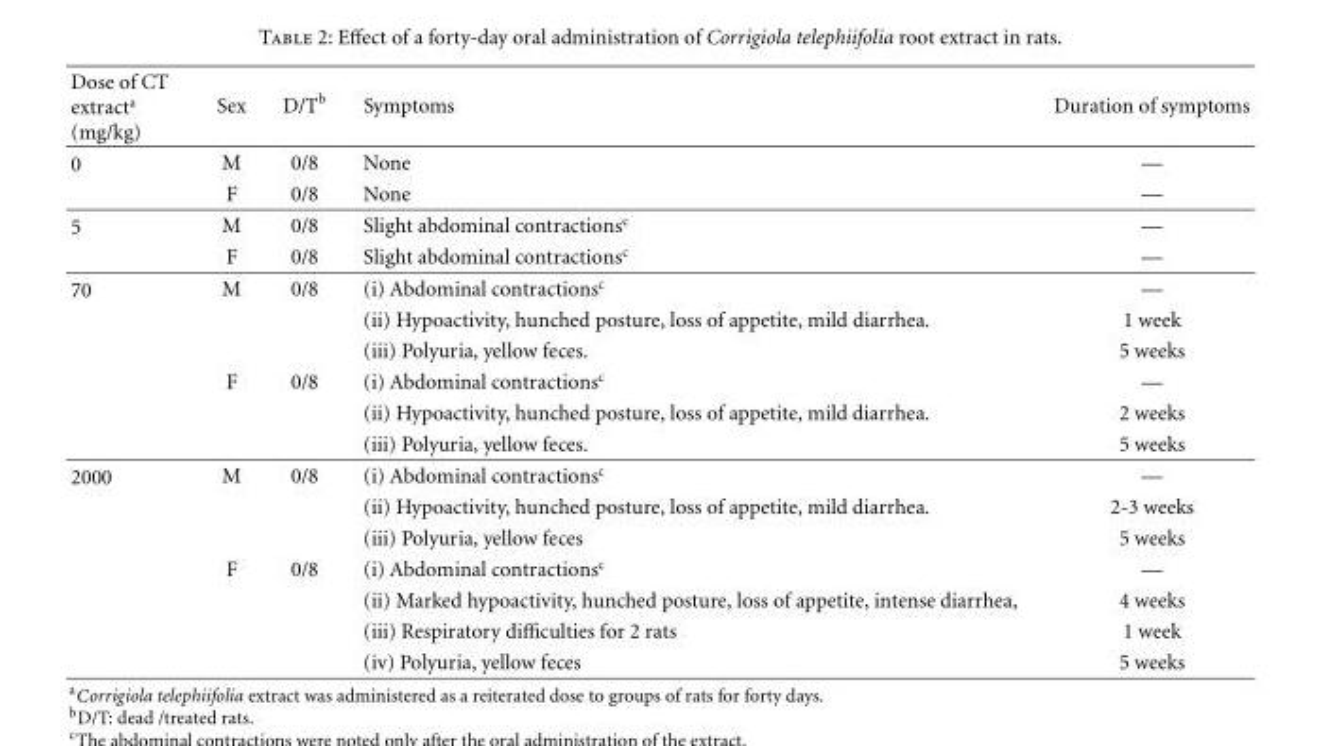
<table><thead><tr><td>Dose of CT extracta (mg/kg)</td><td>Sex</td><td>D/Tb</td><td>Symptoms</td><td>Duration of symptoms</td></tr></thead><tbody><tr><td rowspan="2">0</td><td>M</td><td>0/8</td><td>None</td><td>—</td></tr><tr><td>F</td><td>0/8</td><td>None</td><td>—</td></tr><tr><td rowspan="2">5</td><td>M</td><td>0/8</td><td>Slight abdominal contractionsc</td><td>—</td></tr><tr><td>F</td><td>0/8</td><td>Slight abdominal contractionsc</td><td>—</td></tr><tr><td rowspan="6">70</td><td>M</td><td>0/8</td><td>(i) Abdominal contractionsc</td><td>—</td></tr><tr><td></td><td></td><td>(ii) Hypoactivity, hunched posture, loss of appetite, mild diarrhea.</td><td>1 week</td></tr><tr><td></td><td></td><td>(iii) Polyuria, yellow feces.</td><td>5 weeks</td></tr><tr><td>F</td><td>0/8</td><td>(i) Abdominal contractionsc</td><td>—</td></tr><tr><td></td><td></td><td>(ii) Hypoactivity, hunched posture, loss of appetite, mild diarrhea.</td><td>2 weeks</td></tr><tr><td></td><td></td><td>(iii) Polyuria, yellow feces.</td><td>5 weeks</td></tr><tr><td rowspan="7">2000</td><td>M</td><td>0/8</td><td>(i) Abdominal contractionsc</td><td>—</td></tr><tr><td></td><td></td><td>(ii) Hypoactivity, hunched posture, loss of appetite, mild diarrhea.</td><td>2-3 weeks</td></tr><tr><td></td><td></td><td>(iii) Polyuria, yellow feces</td><td>5 weeks</td></tr><tr><td>F</td><td>0/8</td><td>(i) Abdominal contractionsc</td><td>—</td></tr><tr><td></td><td></td><td>(ii) Marked hypoactivity, hunched posture, loss of appetite, intense diarrhea,</td><td>4 weeks</td></tr><tr><td></td><td></td><td>(iii) Respiratory difficulties for 2 rats</td><td>1 week</td></tr><tr><td></td><td></td><td>(iv) Polyuria, yellow feces</td><td>5 weeks</td></tr></tbody></table>